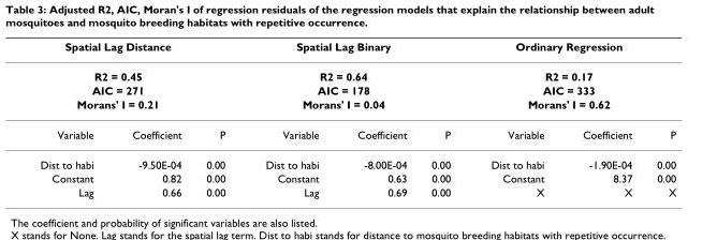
<table><thead><tr><td colspan="3">Spatial Lag Distance</td><td colspan="3">Spatial Lag Binary</td><td colspan="3">Ordinary Regression</td></tr></thead><tbody><tr><td colspan="3">R2 = 0.45</td><td colspan="3">R2 = 0.64</td><td colspan="3">R2 = 0.17</td></tr><tr><td colspan="3">AIC = 271</td><td colspan="3">AIC = 178</td><td colspan="3">AIC = 333</td></tr><tr><td colspan="3">Morans&#x27; I = 0.21</td><td colspan="3">Morans&#x27; I = 0.04</td><td colspan="3">Morans&#x27; I = 0.62</td></tr><tr><td>Variable</td><td>Coefficient</td><td>P</td><td>Variable</td><td>Coefficient</td><td>P</td><td>Variable</td><td>Coefficient</td><td>P</td></tr><tr><td>Dist to habi</td><td>-9.50E-04</td><td>0.00</td><td>Dist to habi</td><td>-8.00E-04</td><td>0.00</td><td>Dist to habi</td><td>-1.90E-04</td><td>0.00</td></tr><tr><td>Constant</td><td>0.82</td><td>0.00</td><td>Constant</td><td>0.63</td><td>0.00</td><td>Constant</td><td>8.37</td><td>0.00</td></tr><tr><td>Lag</td><td>0.66</td><td>0.00</td><td>Lag</td><td>0.69</td><td>0.00</td><td>X</td><td>X</td><td>X</td></tr></tbody></table>